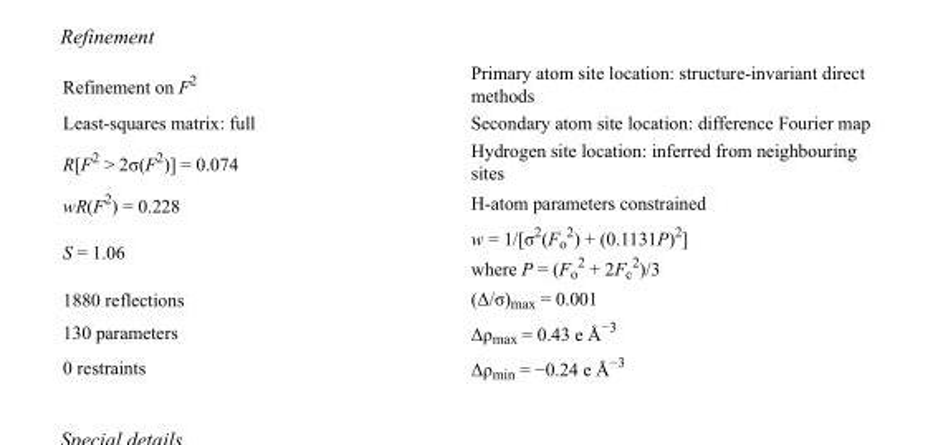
<table><tbody><tr><td>Refinement on F<sup>2</sup></td><td>Primary atom site location: structure-invariant direct methods</td></tr><tr><td>Least-squares matrix: full</td><td>Secondary atom site location: difference Fourier map</td></tr><tr><td>R[F<sup>2</sup> &gt; 2σ(F<sup>2</sup>)] = 0.074</td><td>Hydrogen site location: inferred from neighbouring sites</td></tr><tr><td>wR(F<sup>2</sup>) = 0.228</td><td>H-atom parameters constrained</td></tr><tr><td>S = 1.06</td><td>w = 1/[σ<sup>2</sup>(F<sub>o</sub> <sup>2</sup>) + (0.1131P)<sup>2</sup>] where P = (F<sub>o</sub> <sup>2</sup> + 2F<sub>c</sub> <sup>2</sup>)/3</td></tr><tr><td>1880 reflections</td><td>(Δ/σ)<sub>max</sub> = 0.001</td></tr><tr><td>130 parameters</td><td>Δρ<sub>max</sub> = 0.43 e Å<sup>−3</sup></td></tr><tr><td>0 restraints</td><td>Δρ<sub>min</sub> = −0.24 e Å<sup>−3</sup></td></tr></tbody></table>